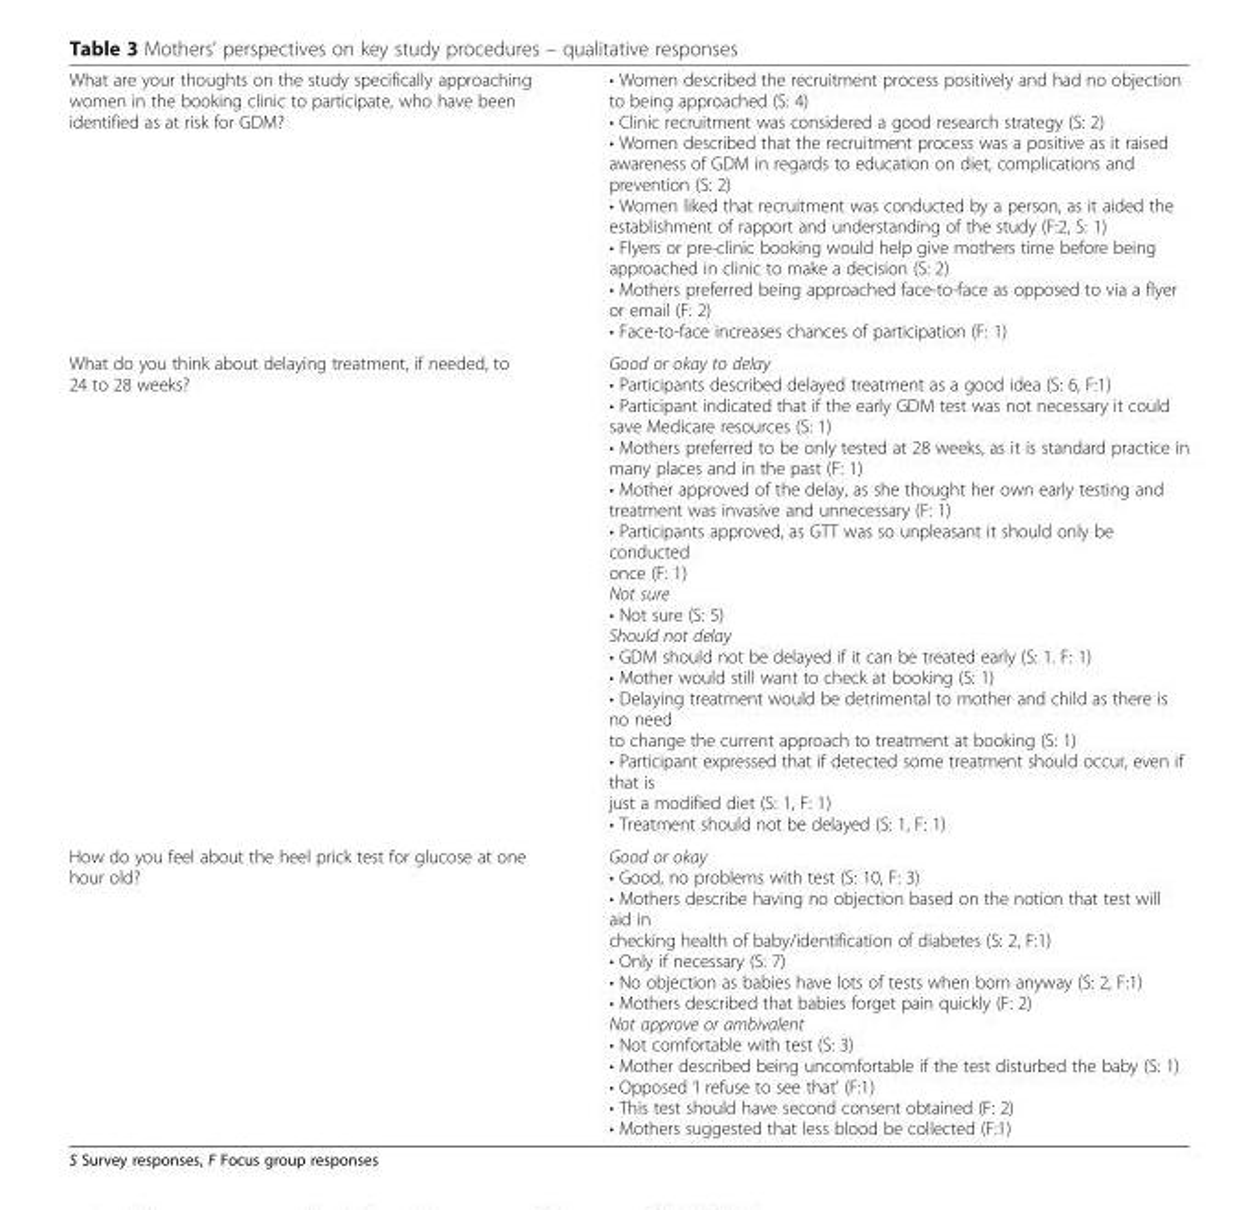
<table><tbody><tr><td>What are your thoughts on the study specifically approaching women in the booking clinic to participate, who have been identified as at risk for GDM?</td><td>• Women described the recruitment process positively and had no objection to being approached (S: 4) • Clinic recruitment was considered a good research strategy (S: 2) • Women described that the recruitment process was a positive as it raised awareness of GDM in regards to education on diet, complications and prevention (S: 2) • Women liked that recruitment was conducted by a person, as it aided the establishment of rapport and understanding of the study (F:2, S: 1) • Flyers or pre-clinic booking would help give mothers time before being approached in clinic to make a decision (S: 2) • Mothers preferred being approached face-to-face as opposed to via a flyer or email (F: 2) • Face-to-face increases chances of participation (F: 1)</td></tr><tr><td>What do you think about delaying treatment, if needed, to 24 to 28 weeks?</td><td>Good or okay to delay • Participants described delayed treatment as a good idea (S: 6, F:1) • Participant indicated that if the early GDM test was not necessary it could save Medicare resources (S: 1) • Mothers preferred to be only tested at 28 weeks, as it is standard practice in many places and in the past (F: 1) • Mother approved of the delay, as she thought her own early testing and treatment was invasive and unnecessary (F: 1) • Participants approved, as GTT was so unpleasant it should only be conducted once (F: 1) Not sure • Not sure (S: 5) Should not delay • GDM should not be delayed if it can be treated early (S: 1. F: 1) • Mother would still want to check at booking (S: 1) • Delaying treatment would be detrimental to mother and child as there is no need to change the current approach to treatment at booking (S: 1) • Participant expressed that if detected some treatment should occur, even if that is just a modified diet (S: 1, F: 1) • Treatment should not be delayed (S: 1, F: 1)</td></tr><tr><td>How do you feel about the heel prick test for glucose at one hour old?</td><td>Good or okay • Good, no problems with test (S: 10, F: 3) • Mothers describe having no objection based on the notion that test will aid in checking health of baby/identification of diabetes (S: 2, F:1) • Only if necessary (S: 7) • No objection as babies have lots of tests when born anyway (S: 2, F:1) • Mothers described that babies forget pain quickly (F: 2) Not approve or ambivalent • Not comfortable with test (S: 3) • Mother described being uncomfortable if the test disturbed the baby (S: 1) • Opposed ‘I refuse to see that’ (F:1) • This test should have second consent obtained (F: 2) • Mothers suggested that less blood be collected (F:1)</td></tr></tbody></table>